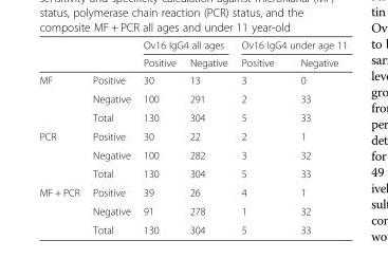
<table><thead><tr><td rowspan="2"></td><td rowspan="2"></td><td colspan="2">Ov16 IgG4 all ages</td><td colspan="2">Ov16 IgG4 under age 11</td></tr><tr><td>Positive</td><td>Negative</td><td>Positive</td><td>Negative</td></tr></thead><tbody><tr><td rowspan="3">MF</td><td>Positive</td><td>30</td><td>13</td><td>3</td><td>0</td></tr><tr><td>Negative</td><td>100</td><td>291</td><td>2</td><td>33</td></tr><tr><td>Total</td><td>130</td><td>304</td><td>5</td><td>33</td></tr><tr><td rowspan="3">PCR</td><td>Positive</td><td>30</td><td>22</td><td>2</td><td>1</td></tr><tr><td>Negative</td><td>100</td><td>282</td><td>3</td><td>32</td></tr><tr><td>Total</td><td>130</td><td>304</td><td>5</td><td>33</td></tr><tr><td rowspan="3">MF + PCR</td><td>Positive</td><td>39</td><td>26</td><td>4</td><td>1</td></tr><tr><td>Negative</td><td>91</td><td>278</td><td>1</td><td>32</td></tr><tr><td>Total</td><td>130</td><td>304</td><td>5</td><td>33</td></tr></tbody></table>